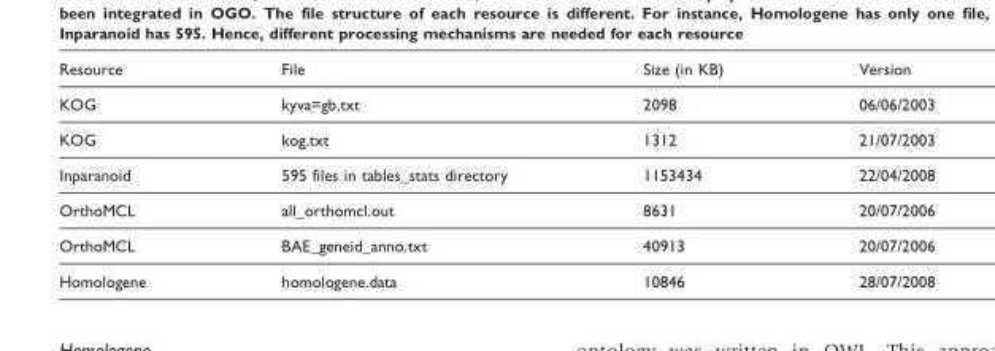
<table><thead><tr><td>Resource</td><td>File</td><td>Size (in KB)</td><td>Version</td></tr></thead><tbody><tr><td>KOG</td><td>kyva=gb.txt</td><td>2098</td><td>06/06/2003</td></tr><tr><td>KOG</td><td>kog.txt</td><td>1312</td><td>21/07/2003</td></tr><tr><td>Inparanoid</td><td>595 files in tables_stats directory</td><td>1153434</td><td>22/04/2008</td></tr><tr><td>OrthoMCL</td><td>all_orthomcl.out</td><td>8631</td><td>20/07/2006</td></tr><tr><td>OrthoMCL</td><td>BAE_geneid_anno.txt</td><td>40913</td><td>20/07/2006</td></tr><tr><td>Homologene</td><td>homologene.data</td><td>10846</td><td>28/07/2008</td></tr></tbody></table>